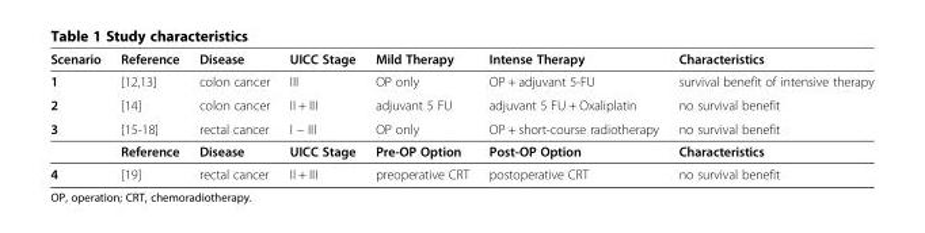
<table><thead><tr><td>Scenario</td><td>Reference</td><td>Disease</td><td>UICC Stage</td><td>Mild Therapy</td><td>Intense Therapy</td><td>Characteristics</td></tr></thead><tbody><tr><td>1</td><td>[12,13]</td><td>colon cancer</td><td>III</td><td>OP only</td><td>OP + adjuvant 5-FU</td><td>survival benefit of intensive therapy</td></tr><tr><td>2</td><td>[14]</td><td>colon cancer</td><td>II + III</td><td>adjuvant 5 FU</td><td>adjuvant 5 FU + Oxaliplatin</td><td>no survival benefit</td></tr><tr><td rowspan="2">3</td><td>[15-18]</td><td>rectal cancer</td><td>I – III</td><td>OP only</td><td>OP + short-course radiotherapy</td><td>no survival benefit</td></tr><tr><td>Reference</td><td>Disease</td><td>UICC Stage</td><td>Pre-OP Option</td><td>Post-OP Option</td><td>Characteristics</td></tr><tr><td>4</td><td>[19]</td><td>rectal cancer</td><td>II + III</td><td>preoperative CRT</td><td>postoperative CRT</td><td>no survival benefit</td></tr></tbody></table>